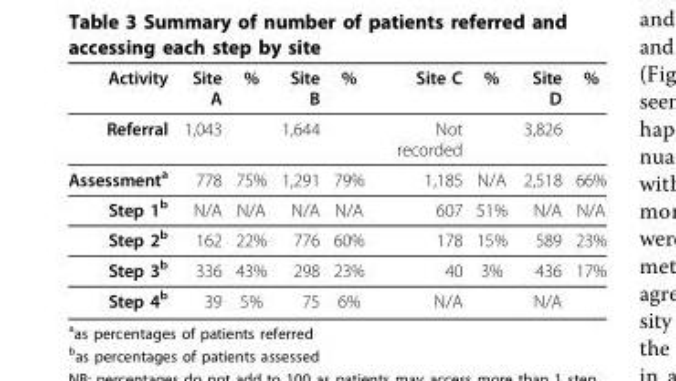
<table><thead><tr><td>Activity</td><td>Site A</td><td>%</td><td>Site B</td><td>%</td><td>Site C</td><td>%</td><td>Site D</td><td>%</td></tr></thead><tbody><tr><td>Referral</td><td>1,043</td><td></td><td>1,644</td><td></td><td>Not recorded</td><td></td><td>3,826</td><td></td></tr><tr><td>Assessment<sup>a</sup></td><td>778</td><td>75%</td><td>1,291</td><td>79%</td><td>1,185</td><td>N/A</td><td>2,518</td><td>66%</td></tr><tr><td>Step 1<sup>b</sup></td><td>N/A</td><td>N/A</td><td>N/A</td><td>N/A</td><td>607</td><td>51%</td><td>N/A</td><td>N/A</td></tr><tr><td>Step 2<sup>b</sup></td><td>162</td><td>22%</td><td>776</td><td>60%</td><td>178</td><td>15%</td><td>589</td><td>23%</td></tr><tr><td>Step 3<sup>b</sup></td><td>336</td><td>43%</td><td>298</td><td>23%</td><td>40</td><td>3%</td><td>436</td><td>17%</td></tr><tr><td>Step 4<sup>b</sup></td><td>39</td><td>5%</td><td>75</td><td>6%</td><td>N/A</td><td></td><td>N/A</td><td></td></tr></tbody></table>